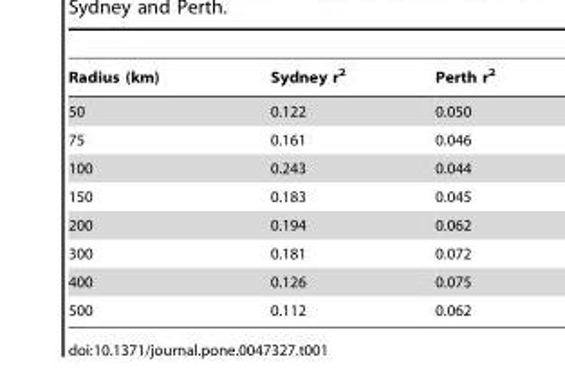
<table><thead><tr><td>Radius (km)</td><td>Sydney r<sup>2</sup></td><td>Perth r<sup>2</sup></td></tr></thead><tbody><tr><td>50</td><td>0.122</td><td>0.050</td></tr><tr><td>75</td><td>0.161</td><td>0.046</td></tr><tr><td>100</td><td>0.243</td><td>0.044</td></tr><tr><td>150</td><td>0.183</td><td>0.045</td></tr><tr><td>200</td><td>0.194</td><td>0.062</td></tr><tr><td>300</td><td>0.181</td><td>0.072</td></tr><tr><td>400</td><td>0.126</td><td>0.075</td></tr><tr><td>500</td><td>0.112</td><td>0.062</td></tr></tbody></table>